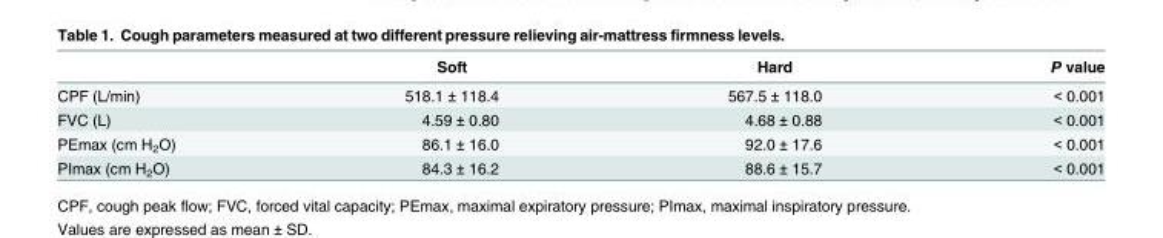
<table><thead><tr><td></td><td>Soft</td><td>Hard</td><td>P value</td></tr></thead><tbody><tr><td>CPF (L/min)</td><td>518.1 ± 118.4</td><td>567.5 ± 118.0</td><td>&lt; 0.001</td></tr><tr><td>FVC (L)</td><td>4.59 ± 0.80</td><td>4.68 ± 0.88</td><td>&lt; 0.001</td></tr><tr><td>PEmax (cm H<sub>2</sub>O)</td><td>86.1 ± 16.0</td><td>92.0 ± 17.6</td><td>&lt; 0.001</td></tr><tr><td>PImax (cm H<sub>2</sub>O)</td><td>84.3 ± 16.2</td><td>88.6 ± 15.7</td><td>&lt; 0.001</td></tr></tbody></table>